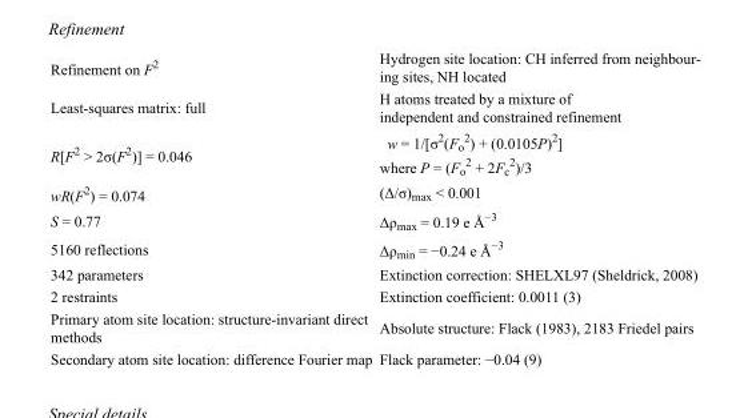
<table><tbody><tr><td>Refinement on F<sup>2</sup></td><td>Hydrogen site location: CH inferred from neighbour- ing sites, NH located</td></tr><tr><td>Least-squares matrix: full</td><td>H atoms treated by a mixture of independent and constrained refinement</td></tr><tr><td>R[F<sup>2</sup> &gt; 2σ(F<sup>2</sup>)] = 0.046</td><td>w = 1/[σ<sup>2</sup>(F<sub>o</sub> <sup>2</sup>) + (0.0105P)<sup>2</sup>] where P = (F<sub>o</sub> <sup>2</sup> + 2F<sub>c</sub> <sup>2</sup>)/3</td></tr><tr><td>wR(F<sup>2</sup>) = 0.074</td><td>(Δ/σ)<sub>max</sub> &lt; 0.001</td></tr><tr><td>S = 0.77</td><td>Δρ<sub>max</sub> = 0.19 e Å<sup>−3</sup></td></tr><tr><td>5160 reflections</td><td>Δρ<sub>min</sub> = −0.24 e Å<sup>−3</sup></td></tr><tr><td>342 parameters</td><td>Extinction correction: SHELXL97 (Sheldrick, 2008)</td></tr><tr><td>2 restraints</td><td>Extinction coefficient: 0.0011 (3)</td></tr><tr><td>Primary atom site location: structure-invariant direct methods</td><td>Absolute structure: Flack (1983), 2183 Friedel pairs</td></tr><tr><td>Secondary atom site location: difference Fourier map</td><td>Flack parameter: −0.04 (9)</td></tr></tbody></table>